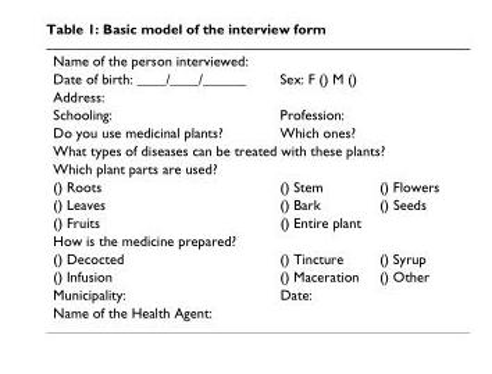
<table><tbody><tr><td colspan="3">Name of the person interviewed:</td></tr><tr><td>Date of birth: ____/____/______</td><td>Sex: F () M ()</td><td></td></tr><tr><td colspan="3">Address:</td></tr><tr><td>Schooling:</td><td>Profession:</td><td></td></tr><tr><td>Do you use medicinal plants?</td><td>Which ones?</td><td></td></tr><tr><td colspan="3">What types of diseases can be treated with these plants?</td></tr><tr><td colspan="3">Which plant parts are used?</td></tr><tr><td>() Roots</td><td>() Stem</td><td>() Flowers</td></tr><tr><td>() Leaves</td><td>() Bark</td><td>() Seeds</td></tr><tr><td>() Fruits</td><td>() Entire plant</td><td></td></tr><tr><td colspan="3">How is the medicine prepared?</td></tr><tr><td>() Decocted</td><td>() Tincture</td><td>() Syrup</td></tr><tr><td>() Infusion</td><td>() Maceration</td><td>() Other</td></tr><tr><td>Municipality:</td><td>Date:</td><td></td></tr><tr><td>Name of the Health Agent:</td><td></td><td></td></tr></tbody></table>